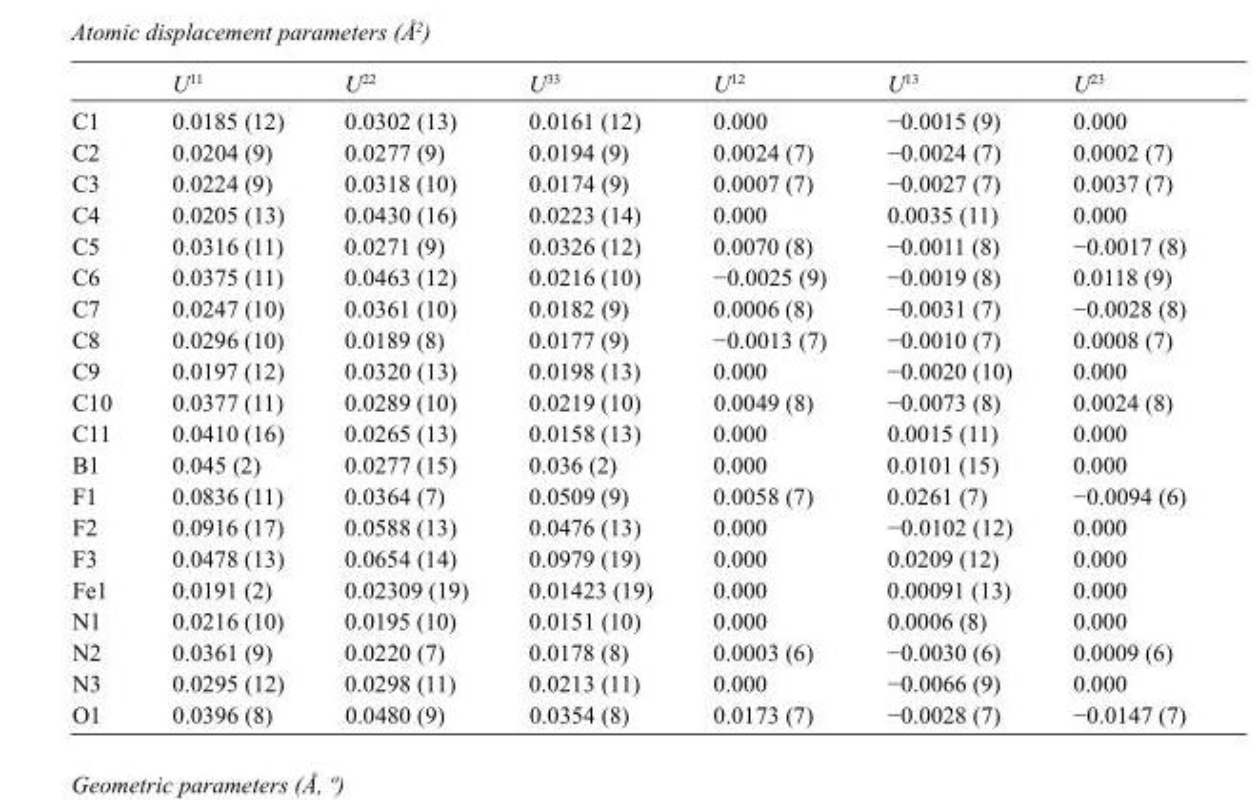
<table><thead><tr><td></td><td>U<sup>11</sup></td><td>U<sup>22</sup></td><td>U<sup>33</sup></td><td>U<sup>12</sup></td><td>U<sup>13</sup></td><td>U<sup>23</sup></td></tr></thead><tbody><tr><td>C1</td><td>0.0185 (12)</td><td>0.0302 (13)</td><td>0.0161 (12)</td><td>0.000</td><td>−0.0015 (9)</td><td>0.000</td></tr><tr><td>C2</td><td>0.0204 (9)</td><td>0.0277 (9)</td><td>0.0194 (9)</td><td>0.0024 (7)</td><td>−0.0024 (7)</td><td>0.0002 (7)</td></tr><tr><td>C3</td><td>0.0224 (9)</td><td>0.0318 (10)</td><td>0.0174 (9)</td><td>0.0007 (7)</td><td>−0.0027 (7)</td><td>0.0037 (7)</td></tr><tr><td>C4</td><td>0.0205 (13)</td><td>0.0430 (16)</td><td>0.0223 (14)</td><td>0.000</td><td>0.0035 (11)</td><td>0.000</td></tr><tr><td>C5</td><td>0.0316 (11)</td><td>0.0271 (9)</td><td>0.0326 (12)</td><td>0.0070 (8)</td><td>−0.0011 (8)</td><td>−0.0017 (8)</td></tr><tr><td>C6</td><td>0.0375 (11)</td><td>0.0463 (12)</td><td>0.0216 (10)</td><td>−0.0025 (9)</td><td>−0.0019 (8)</td><td>0.0118 (9)</td></tr><tr><td>C7</td><td>0.0247 (10)</td><td>0.0361 (10)</td><td>0.0182 (9)</td><td>0.0006 (8)</td><td>−0.0031 (7)</td><td>−0.0028 (8)</td></tr><tr><td>C8</td><td>0.0296 (10)</td><td>0.0189 (8)</td><td>0.0177 (9)</td><td>−0.0013 (7)</td><td>−0.0010 (7)</td><td>0.0008 (7)</td></tr><tr><td>C9</td><td>0.0197 (12)</td><td>0.0320 (13)</td><td>0.0198 (13)</td><td>0.000</td><td>−0.0020 (10)</td><td>0.000</td></tr><tr><td>C10</td><td>0.0377 (11)</td><td>0.0289 (10)</td><td>0.0219 (10)</td><td>0.0049 (8)</td><td>−0.0073 (8)</td><td>0.0024 (8)</td></tr><tr><td>C11</td><td>0.0410 (16)</td><td>0.0265 (13)</td><td>0.0158 (13)</td><td>0.000</td><td>0.0015 (11)</td><td>0.000</td></tr><tr><td>B1</td><td>0.045 (2)</td><td>0.0277 (15)</td><td>0.036 (2)</td><td>0.000</td><td>0.0101 (15)</td><td>0.000</td></tr><tr><td>F1</td><td>0.0836 (11)</td><td>0.0364 (7)</td><td>0.0509 (9)</td><td>0.0058 (7)</td><td>0.0261 (7)</td><td>−0.0094 (6)</td></tr><tr><td>F2</td><td>0.0916 (17)</td><td>0.0588 (13)</td><td>0.0476 (13)</td><td>0.000</td><td>−0.0102 (12)</td><td>0.000</td></tr><tr><td>F3</td><td>0.0478 (13)</td><td>0.0654 (14)</td><td>0.0979 (19)</td><td>0.000</td><td>0.0209 (12)</td><td>0.000</td></tr><tr><td>Fe1</td><td>0.0191 (2)</td><td>0.02309 (19)</td><td>0.01423 (19)</td><td>0.000</td><td>0.00091 (13)</td><td>0.000</td></tr><tr><td>N1</td><td>0.0216 (10)</td><td>0.0195 (10)</td><td>0.0151 (10)</td><td>0.000</td><td>0.0006 (8)</td><td>0.000</td></tr><tr><td>N2</td><td>0.0361 (9)</td><td>0.0220 (7)</td><td>0.0178 (8)</td><td>0.0003 (6)</td><td>−0.0030 (6)</td><td>0.0009 (6)</td></tr><tr><td>N3</td><td>0.0295 (12)</td><td>0.0298 (11)</td><td>0.0213 (11)</td><td>0.000</td><td>−0.0066 (9)</td><td>0.000</td></tr><tr><td>O1</td><td>0.0396 (8)</td><td>0.0480 (9)</td><td>0.0354 (8)</td><td>0.0173 (7)</td><td>−0.0028 (7)</td><td>−0.0147 (7)</td></tr></tbody></table>